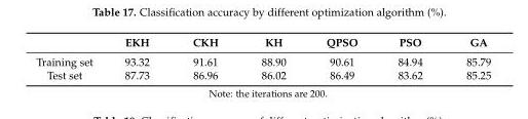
<table><thead><tr><td></td><td>EKH</td><td>CKH</td><td>KH</td><td>QPSO</td><td>PSO</td><td>GA</td></tr></thead><tbody><tr><td>Training set</td><td>93.32</td><td>91.61</td><td>88.90</td><td>90.61</td><td>84.94</td><td>85.79</td></tr><tr><td>Test set</td><td>87.73</td><td>86.96</td><td>86.02</td><td>86.49</td><td>83.62</td><td>85.25</td></tr></tbody></table>